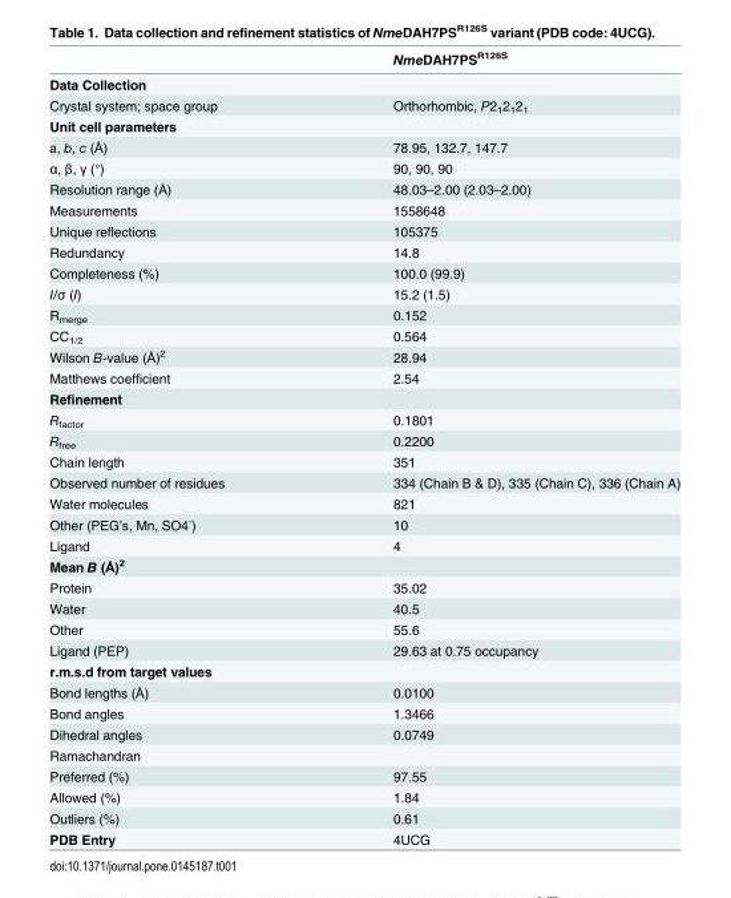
<table><thead><tr><td></td><td>NmeDAH7PS<sup>R126S</sup></td></tr></thead><tbody><tr><td colspan="2">Data Collection</td></tr><tr><td>Crystal system; space group</td><td>Orthorhombic, P2<sub>1</sub>2<sub>1</sub>2<sub>1</sub></td></tr><tr><td colspan="2">Unit cell parameters</td></tr><tr><td>a, b, c (Å)</td><td>78.95, 132.7, 147.7</td></tr><tr><td>α, β, γ (°)</td><td>90, 90, 90</td></tr><tr><td>Resolution range (Å)</td><td>48.03–2.00 (2.03–2.00)</td></tr><tr><td>Measurements</td><td>1558648</td></tr><tr><td>Unique reflections</td><td>105375</td></tr><tr><td>Redundancy</td><td>14.8</td></tr><tr><td>Completeness (%)</td><td>100.0 (99.9)</td></tr><tr><td>I/σ (I)</td><td>15.2 (1.5)</td></tr><tr><td>R<sub>merge</sub></td><td>0.152</td></tr><tr><td>CC<sub>1/2</sub></td><td>0.564</td></tr><tr><td>Wilson B-value (Å)<sup>2</sup></td><td>28.94</td></tr><tr><td>Matthews coefficient</td><td>2.54</td></tr><tr><td colspan="2">Refinement</td></tr><tr><td>R<sub>factor</sub></td><td>0.1801</td></tr><tr><td>R<sub>free</sub></td><td>0.2200</td></tr><tr><td>Chain length</td><td>351</td></tr><tr><td>Observed number of residues</td><td>334 (Chain B &amp; D), 335 (Chain C), 336 (Chain A)</td></tr><tr><td>Water molecules</td><td>821</td></tr><tr><td>Other (PEG’s, Mn, SO4<sup>-</sup>)</td><td>10</td></tr><tr><td>Ligand</td><td>4</td></tr><tr><td colspan="2">Mean B (Å)<sup>2</sup></td></tr><tr><td>Protein</td><td>35.02</td></tr><tr><td>Water</td><td>40.5</td></tr><tr><td>Other</td><td>55.6</td></tr><tr><td>Ligand (PEP)</td><td>29.63 at 0.75 occupancy</td></tr><tr><td colspan="2">r.m.s.d from target values</td></tr><tr><td>Bond lengths (Å)</td><td>0.0100</td></tr><tr><td>Bond angles</td><td>1.3466</td></tr><tr><td>Dihedral angles</td><td>0.0749</td></tr><tr><td colspan="2">Ramachandran</td></tr><tr><td>Preferred (%)</td><td>97.55</td></tr><tr><td>Allowed (%)</td><td>1.84</td></tr><tr><td>Outliers (%)</td><td>0.61</td></tr><tr><td>PDB Entry</td><td>4UCG</td></tr></tbody></table>